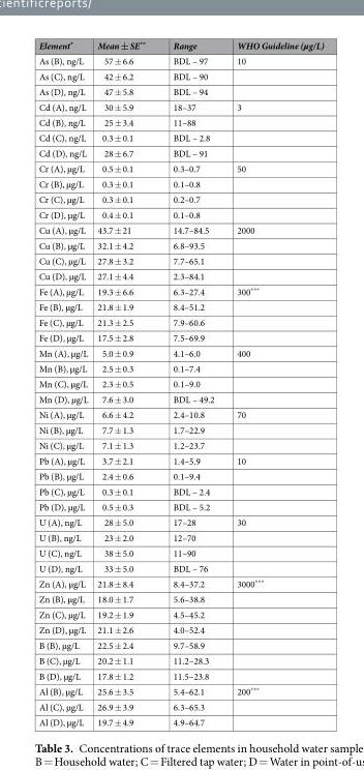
<table><thead><tr><td>Element*</td><td>Mean ± SE**</td><td>Range</td><td>WHO Guideline (µg/L)</td></tr></thead><tbody><tr><td>As (B), ng/L</td><td>57 ± 6.6</td><td>BDL – 97</td><td>10</td></tr><tr><td>As (C), ng/L</td><td>42 ± 6.2</td><td>BDL – 90</td><td></td></tr><tr><td>As (D), ng/L</td><td>47 ± 5.8</td><td>BDL – 94</td><td></td></tr><tr><td>Cd (A), ng/L</td><td>30 ± 5.9</td><td>18–37</td><td>3</td></tr><tr><td>Cd (B), ng/L</td><td>25 ± 3.4</td><td>11–88</td><td></td></tr><tr><td>Cd (C), ng/L</td><td>0.3 ± 0.1</td><td>BDL – 2.8</td><td></td></tr><tr><td>Cd (D), ng/L</td><td>28 ± 6.7</td><td>BDL – 91</td><td></td></tr><tr><td>Cr (A), µg/L</td><td>0.5 ± 0.1</td><td>0.3–0.7</td><td>50</td></tr><tr><td>Cr (B), µg/L</td><td>0.3 ± 0.1</td><td>0.1–0.8</td><td></td></tr><tr><td>Cr (C), µg/L</td><td>0.3 ± 0.1</td><td>0.2–0.7</td><td></td></tr><tr><td>Cr (D), µg/L</td><td>0.4 ± 0.1</td><td>0.1–0.8</td><td></td></tr><tr><td>Cu (A), µg/L</td><td>43.7 ± 21</td><td>14.7–84.5</td><td>2000</td></tr><tr><td>Cu (B), µg/L</td><td>32.1 ± 4.2</td><td>6.8–93.5</td><td></td></tr><tr><td>Cu (C), µg/L</td><td>27.8 ± 3.2</td><td>7.7–65.1</td><td></td></tr><tr><td>Cu (D), µg/L</td><td>27.1 ± 4.4</td><td>2.3–84.1</td><td></td></tr><tr><td>Fe (A), µg/L</td><td>19.3 ± 6.6</td><td>6.3–27.4</td><td>300***</td></tr><tr><td>Fe (B), µg/L</td><td>21.8 ± 1.9</td><td>8.4–51.2</td><td></td></tr><tr><td>Fe (C), µg/L</td><td>21.3 ± 2.5</td><td>7.9–60.6</td><td></td></tr><tr><td>Fe (D), µg/L</td><td>17.5 ± 2.8</td><td>7.5–69.9</td><td></td></tr><tr><td>Mn (A), µg/L</td><td>5.0 ± 0.9</td><td>4.1–6.0</td><td>400</td></tr><tr><td>Mn (B), µg/L</td><td>2.5 ± 0.3</td><td>0.1–7.4</td><td></td></tr><tr><td>Mn (C), µg/L</td><td>2.3 ± 0.5</td><td>0.1–9.0</td><td></td></tr><tr><td>Mn (D), µg/L</td><td>7.6 ± 3.0</td><td>BDL – 49.2</td><td></td></tr><tr><td>Ni (A), µg/L</td><td>6.6 ± 4.2</td><td>2.4–10.8</td><td>70</td></tr><tr><td>Ni (B), µg/L</td><td>7.7 ± 1.3</td><td>1.7–22.9</td><td></td></tr><tr><td>Ni (C), µg/L</td><td>7.1 ± 1.3</td><td>1.2–23.7</td><td></td></tr><tr><td>Pb (A), µg/L</td><td>3.7 ± 2.1</td><td>1.4–5.9</td><td>10</td></tr><tr><td>Pb (B), µg/L</td><td>2.4 ± 0.6</td><td>0.1–9.4</td><td></td></tr><tr><td>Pb (C), µg/L</td><td>0.3 ± 0.1</td><td>BDL – 2.4</td><td></td></tr><tr><td>Pb (D), µg/L</td><td>0.5 ± 0.3</td><td>BDL – 5.2</td><td></td></tr><tr><td>U (A), ng/L</td><td>28 ± 5.0</td><td>17–28</td><td>30</td></tr><tr><td>U (B), ng/L</td><td>23 ± 2.0</td><td>12–70</td><td></td></tr><tr><td>U (C), ng/L</td><td>38 ± 5.0</td><td>11–90</td><td></td></tr><tr><td>U (D), ng/L</td><td>33 ± 5.0</td><td>BDL – 76</td><td></td></tr><tr><td>Zn (A), µg/L</td><td>21.8 ± 8.4</td><td>8.4–37.2</td><td>3000***</td></tr><tr><td>Zn (B), µg/L</td><td>18.0 ± 1.7</td><td>5.6–38.8</td><td></td></tr><tr><td>Zn (C), µg/L</td><td>19.2 ± 1.9</td><td>4.5–45.2</td><td></td></tr><tr><td>Zn (D), µg/L</td><td>21.1 ± 2.6</td><td>4.0–52.4</td><td></td></tr><tr><td>B (B), µg/L</td><td>22.5 ± 2.4</td><td>9.7–58.9</td><td></td></tr><tr><td>B (C), µg/L</td><td>20.2 ± 1.1</td><td>11.2–28.3</td><td></td></tr><tr><td>B (D), µg/L</td><td>17.8 ± 1.2</td><td>11.5–23.8</td><td></td></tr><tr><td>Al (B), µg/L</td><td>25.6 ± 3.5</td><td>5.4–62.1</td><td>200***</td></tr><tr><td>Al (C), µg/L</td><td>26.9 ± 3.9</td><td>6.3–65.3</td><td></td></tr><tr><td>Al (D), µg/L</td><td>19.7 ± 4.9</td><td>4.9–64.7</td><td></td></tr></tbody></table>